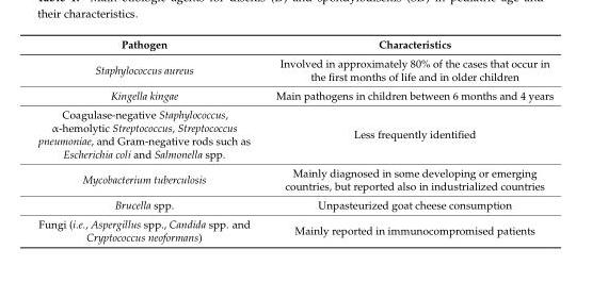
<table><thead><tr><td>Pathogen</td><td>Characteristics</td></tr></thead><tbody><tr><td>Staphylococcus aureus</td><td>Involved in approximately 80% of the cases that occur in the first months of life and in older children</td></tr><tr><td>Kingella kingae</td><td>Main pathogens in children between 6 months and 4 years</td></tr><tr><td>Coagulase-negative Staphylococcus, α-hemolytic Streptococcus, Streptococcus pneumoniae, and Gram-negative rods such as Escherichia coli and Salmonella spp.</td><td>Less frequently identified</td></tr><tr><td>Mycobacterium tuberculosis</td><td>Mainly diagnosed in some developing or emerging countries, but reported also in industrialized countries</td></tr><tr><td>Brucella spp.</td><td>Unpasteurized goat cheese consumption</td></tr><tr><td>Fungi (i.e., Aspergillus spp., Candida spp. and Cryptococcus neoformans)</td><td>Mainly reported in immunocompromised patients</td></tr></tbody></table>